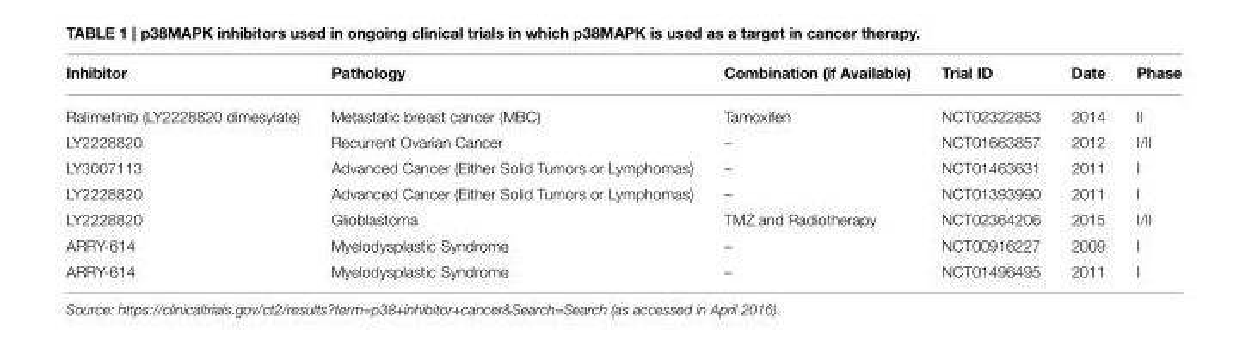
<table><thead><tr><td>Inhibitor</td><td>Pathology</td><td>Combination (if Available)</td><td>Trial ID</td><td>Date</td><td>Phase</td></tr></thead><tbody><tr><td>Ralimetinib (LY2228820 dimesylate)</td><td>Metastatic breast cancer (MBC)</td><td>Tamoxifen</td><td>NCT02322853</td><td>2014</td><td>II</td></tr><tr><td>LY2228820</td><td>Recurrent Ovarian Cancer</td><td>–</td><td>NCT01663857</td><td>2012</td><td>I/II</td></tr><tr><td>LY3007113</td><td>Advanced Cancer (Either Solid Tumors or Lymphomas)</td><td>–</td><td>NCT01463631</td><td>2011</td><td>I</td></tr><tr><td>LY2228820</td><td>Advanced Cancer (Either Solid Tumors or Lymphomas)</td><td>–</td><td>NCT01393990</td><td>2011</td><td>I</td></tr><tr><td>LY2228820</td><td>Glioblastoma</td><td>TMZ and Radiotherapy</td><td>NCT02364206</td><td>2015</td><td>I/II</td></tr><tr><td>ARRY-614</td><td>Myelodysplastic Syndrome</td><td>–</td><td>NCT00916227</td><td>2009</td><td>I</td></tr><tr><td>ARRY-614</td><td>Myelodysplastic Syndrome</td><td>–</td><td>NCT01496495</td><td>2011</td><td>I</td></tr></tbody></table>